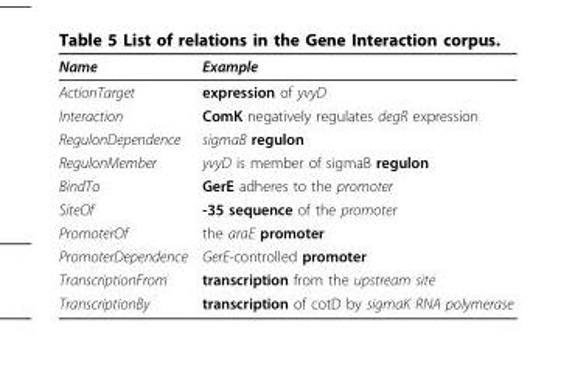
<table><thead><tr><td>Name</td><td>Example</td></tr></thead><tbody><tr><td>ActionTarget</td><td>expression of yvyD</td></tr><tr><td>Interaction</td><td>ComK negatively regulates degR expression</td></tr><tr><td>RegulonDependence</td><td>sigmaB regulon</td></tr><tr><td>RegulonMember</td><td>yvyD is member of sigmaB regulon</td></tr><tr><td>BindTo</td><td>GerE adheres to the promoter</td></tr><tr><td>SiteOf</td><td>-35 sequence of the promoter</td></tr><tr><td>PromoterOf</td><td>the araE promoter</td></tr><tr><td>PromoterDependence</td><td>GerE-controlled promoter</td></tr><tr><td>TranscriptionFrom</td><td>transcription from the upstream site</td></tr><tr><td>TranscriptionBy</td><td>transcription of cotD by sigmaK RNA polymerase</td></tr></tbody></table>